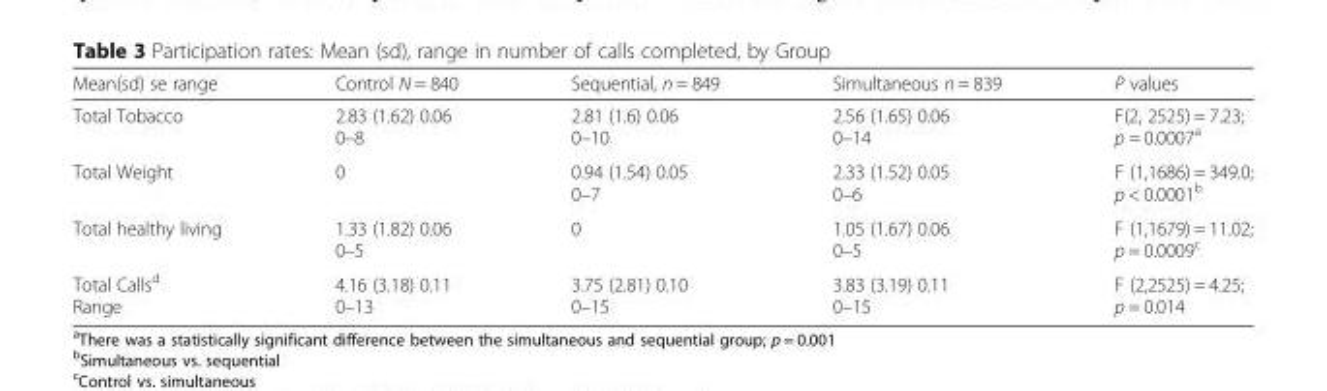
<table><thead><tr><td>Mean(sd) se range</td><td>Control N = 840</td><td>Sequential, n = 849</td><td>Simultaneous n = 839</td><td>P values</td></tr></thead><tbody><tr><td>Total Tobacco</td><td>2.83 (1.62) 0.06 0–8</td><td>2.81 (1.6) 0.06 0–10</td><td>2.56 (1.65) 0.06 0–14</td><td>F(2, 2525) = 7.23; p = 0.0007<sup>a</sup></td></tr><tr><td>Total Weight</td><td>0</td><td>0.94 (1.54) 0.05 0–7</td><td>2.33 (1.52) 0.05 0–6</td><td>F (1,1686) = 349.0; p &lt; 0.0001<sup>b</sup></td></tr><tr><td>Total healthy living</td><td>1.33 (1.82) 0.06 0–5</td><td>0</td><td>1.05 (1.67) 0.06 0–5</td><td>F (1,1679) = 11.02; p = 0.0009<sup>c</sup></td></tr><tr><td>Total Calls<sup>d</sup> Range</td><td>4.16 (3.18) 0.11 0–13</td><td>3.75 (2.81) 0.10 0–15</td><td>3.83 (3.19) 0.11 0–15</td><td>F (2,2525) = 4.25; p = 0.014</td></tr></tbody></table>